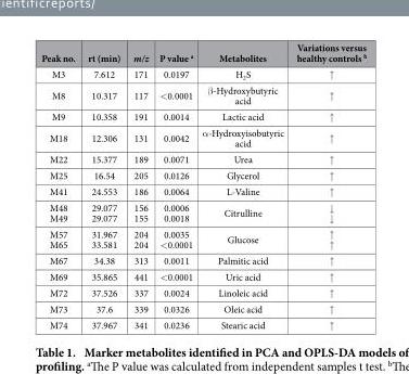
<table><thead><tr><td>Peak no.</td><td>rt (min)</td><td>m/z</td><td>P value <sup>a</sup></td><td>Metabolites</td><td>Variations versus healthy controls <sup>b</sup></td></tr></thead><tbody><tr><td>M3</td><td>7.612</td><td>171</td><td>0.0197</td><td>H<sub>2</sub>S</td><td>↑</td></tr><tr><td>M8</td><td>10.317</td><td>117</td><td>&lt; 0.0001</td><td>β -Hydroxybutyric acid</td><td>↑</td></tr><tr><td>M9</td><td>10.358</td><td>191</td><td>0.0014</td><td>Lactic acid</td><td>↑</td></tr><tr><td>M18</td><td>12.306</td><td>131</td><td>0.0042</td><td>α -Hydroxyisobutyric acid</td><td>↑</td></tr><tr><td>M22</td><td>15.377</td><td>189</td><td>0.0071</td><td>Urea</td><td>↑</td></tr><tr><td>M25</td><td>16.54</td><td>205</td><td>0.0126</td><td>Glycerol</td><td>↑</td></tr><tr><td>M41</td><td>24.553</td><td>186</td><td>0.0064</td><td>L-Valine</td><td>↑</td></tr><tr><td>M48 M49</td><td>29.077 29.077</td><td>156 155</td><td>0.0006 0.0018</td><td>Citrulline</td><td>↓ ↓</td></tr><tr><td>M57 M65</td><td>31.967 33.581</td><td>204 204</td><td>0.0035 &lt; 0.0001</td><td>Glucose</td><td>↑ ↑</td></tr><tr><td>M67</td><td>34.38</td><td>313</td><td>0.0011</td><td>Palmitic acid</td><td>↑</td></tr><tr><td>M69</td><td>35.865</td><td>441</td><td>&lt; 0.0001</td><td>Uric acid</td><td>↑</td></tr><tr><td>M72</td><td>37.526</td><td>337</td><td>0.0024</td><td>Linoleic acid</td><td>↑</td></tr><tr><td>M73</td><td>37.6</td><td>339</td><td>0.0326</td><td>Oleic acid</td><td>↑</td></tr><tr><td>M74</td><td>37.967</td><td>341</td><td>0.0236</td><td>Stearic acid</td><td>↑</td></tr></tbody></table>